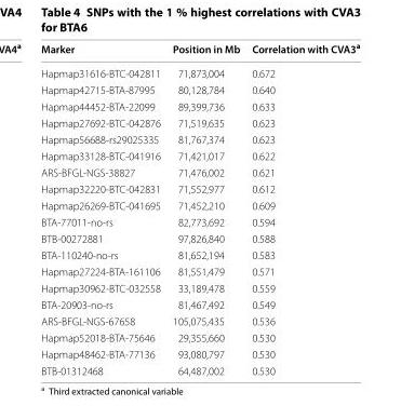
<table><thead><tr><td>Marker</td><td>Position in Mb</td><td>Correlation with CVA3<sup>a</sup></td></tr></thead><tbody><tr><td>Hapmap31616-BTC-042811</td><td>71,873,004</td><td>0.672</td></tr><tr><td>Hapmap42715-BTA-87995</td><td>80,128,784</td><td>0.640</td></tr><tr><td>Hapmap44452-BTA-22099</td><td>89,399,736</td><td>0.633</td></tr><tr><td>Hapmap27692-BTC-042876</td><td>71,519,635</td><td>0.623</td></tr><tr><td>Hapmap56688-rs29025335</td><td>81,767,374</td><td>0.623</td></tr><tr><td>Hapmap33128-BTC-041916</td><td>71,421,017</td><td>0.622</td></tr><tr><td>ARS-BFGL-NGS-38827</td><td>71,476,002</td><td>0.621</td></tr><tr><td>Hapmap32220-BTC-042831</td><td>71,552,977</td><td>0.612</td></tr><tr><td>Hapmap26269-BTC-041695</td><td>71,452,210</td><td>0.609</td></tr><tr><td>BTA-77011-no-rs</td><td>82,773,692</td><td>0.594</td></tr><tr><td>BTB-00272881</td><td>97,826,840</td><td>0.588</td></tr><tr><td>BTA-110240-no-rs</td><td>81,652,194</td><td>0.583</td></tr><tr><td>Hapmap27224-BTA-161106</td><td>81,551,479</td><td>0.571</td></tr><tr><td>Hapmap30962-BTC-032558</td><td>33,189,478</td><td>0.559</td></tr><tr><td>BTA-20903-no-rs</td><td>81,467,492</td><td>0.549</td></tr><tr><td>ARS-BFGL-NGS-67658</td><td>105,075,435</td><td>0.536</td></tr><tr><td>Hapmap52018-BTA-75646</td><td>29,355,660</td><td>0.530</td></tr><tr><td>Hapmap48462-BTA-77136</td><td>93,080,797</td><td>0.530</td></tr><tr><td>BTB-01312468</td><td>64,487,002</td><td>0.530</td></tr></tbody></table>